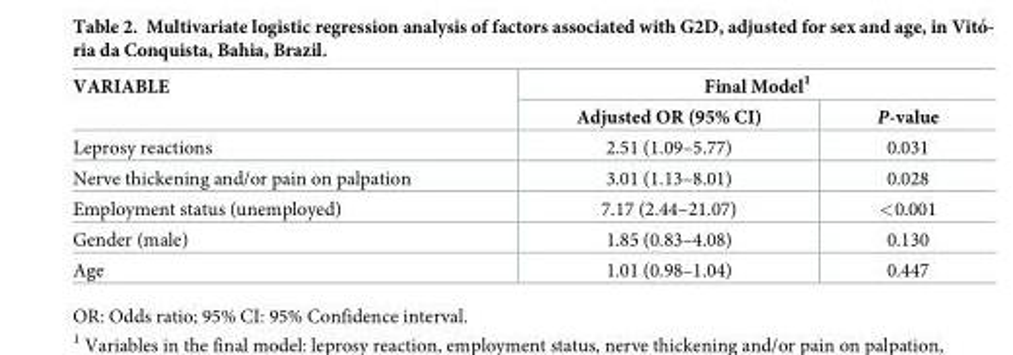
<table><thead><tr><td rowspan="2">VARIABLE</td><td colspan="2">Final Model<sup>1</sup></td></tr><tr><td>Adjusted OR (95% CI)</td><td>P-value</td></tr></thead><tbody><tr><td>Leprosy reactions</td><td>2.51 (1.09–5.77)</td><td>0.031</td></tr><tr><td>Nerve thickening and/or pain on palpation</td><td>3.01 (1.13–8.01)</td><td>0.028</td></tr><tr><td>Employment status (unemployed)</td><td>7.17 (2.44–21.07)</td><td>&lt;0.001</td></tr><tr><td>Gender (male)</td><td>1.85 (0.83–4.08)</td><td>0.130</td></tr><tr><td>Age</td><td>1.01 (0.98–1.04)</td><td>0.447</td></tr></tbody></table>